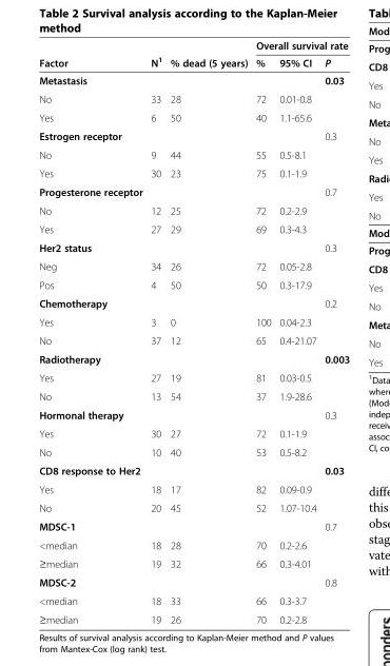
<table><thead><tr><td rowspan="2">Factor</td><td rowspan="2">N<sup>1</sup></td><td rowspan="2">% dead (5 years)</td><td colspan="3">Overall survival rate</td></tr><tr><td>%</td><td>95% CI</td><td>P</td></tr></thead><tbody><tr><td>Metastasis</td><td></td><td></td><td></td><td></td><td>0.03</td></tr><tr><td>No</td><td>33</td><td>28</td><td>72</td><td>0.01-0.8</td><td></td></tr><tr><td>Yes</td><td>6</td><td>50</td><td>40</td><td>1.1-65.6</td><td></td></tr><tr><td>Estrogen receptor</td><td></td><td></td><td></td><td></td><td>0.3</td></tr><tr><td>No</td><td>9</td><td>44</td><td>55</td><td>0.5-8.1</td><td></td></tr><tr><td>Yes</td><td>30</td><td>23</td><td>75</td><td>0.1-1.9</td><td></td></tr><tr><td>Progesterone receptor</td><td></td><td></td><td></td><td></td><td>0.7</td></tr><tr><td>No</td><td>12</td><td>25</td><td>72</td><td>0.2-2.9</td><td></td></tr><tr><td>Yes</td><td>27</td><td>29</td><td>69</td><td>0.3-4.3</td><td></td></tr><tr><td>Her2 status</td><td></td><td></td><td></td><td></td><td>0.3</td></tr><tr><td>Neg</td><td>34</td><td>26</td><td>72</td><td>0.05-2.8</td><td></td></tr><tr><td>Pos</td><td>4</td><td>50</td><td>50</td><td>0.3-17.9</td><td></td></tr><tr><td>Chemotherapy</td><td></td><td></td><td></td><td></td><td>0.2</td></tr><tr><td>Yes</td><td>3</td><td>0</td><td>100</td><td>0.04-2.3</td><td></td></tr><tr><td>No</td><td>37</td><td>12</td><td>65</td><td>0.4-21.07</td><td></td></tr><tr><td>Radiotherapy</td><td></td><td></td><td></td><td></td><td>0.003</td></tr><tr><td>Yes</td><td>27</td><td>19</td><td>81</td><td>0.03-0.5</td><td></td></tr><tr><td>No</td><td>13</td><td>54</td><td>37</td><td>1.9-28.6</td><td></td></tr><tr><td>Hormonal therapy</td><td></td><td></td><td></td><td></td><td>0.3</td></tr><tr><td>Yes</td><td>30</td><td>27</td><td>72</td><td>0.1-1.9</td><td></td></tr><tr><td>No</td><td>10</td><td>40</td><td>53</td><td>0.5-8.2</td><td></td></tr><tr><td>CD8 response to Her2</td><td></td><td></td><td></td><td></td><td>0.03</td></tr><tr><td>Yes</td><td>18</td><td>17</td><td>82</td><td>0.09-0.9</td><td></td></tr><tr><td>No</td><td>20</td><td>45</td><td>52</td><td>1.07-10.4</td><td></td></tr><tr><td>MDSC-1</td><td></td><td></td><td></td><td></td><td>0.7</td></tr><tr><td>&lt;median</td><td>18</td><td>28</td><td>70</td><td>0.2-2.6</td><td></td></tr><tr><td>≥median</td><td>19</td><td>32</td><td>66</td><td>0.3-4.01</td><td></td></tr><tr><td>MDSC-2</td><td></td><td></td><td></td><td></td><td>0.8</td></tr><tr><td>&lt;median</td><td>18</td><td>33</td><td>66</td><td>0.3-3.7</td><td></td></tr><tr><td>≥median</td><td>19</td><td>26</td><td>70</td><td>0.2-2.8</td><td></td></tr></tbody></table>